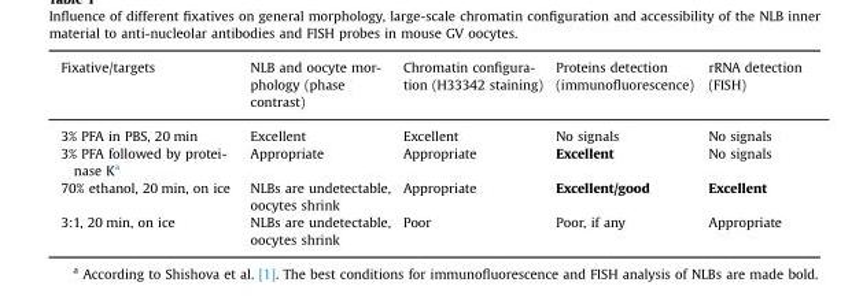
<table><thead><tr><td>Fixative/targets</td><td>NLB and oocyte mor- phology (phase contrast)</td><td>Chromatin configura- tion (H33342 staining)</td><td>Proteins detection (immunofluorescence)</td><td>rRNA detection (FISH)</td></tr></thead><tbody><tr><td>3% PFA in PBS, 20 min</td><td>Excellent</td><td>Excellent</td><td>No signals</td><td>No signals</td></tr><tr><td>3% PFA followed by protei- nase Ka</td><td>Appropriate</td><td>Appropriate</td><td>Excellent</td><td>No signals</td></tr><tr><td>70% ethanol, 20 min, on ice</td><td>NLBs are undetectable, oocytes shrink</td><td>Appropriate</td><td>Excellent/good</td><td>Excellent</td></tr><tr><td>3:1, 20 min, on ice</td><td>NLBs are undetectable, oocytes shrink</td><td>Poor</td><td>Poor, if any</td><td>Appropriate</td></tr></tbody></table>